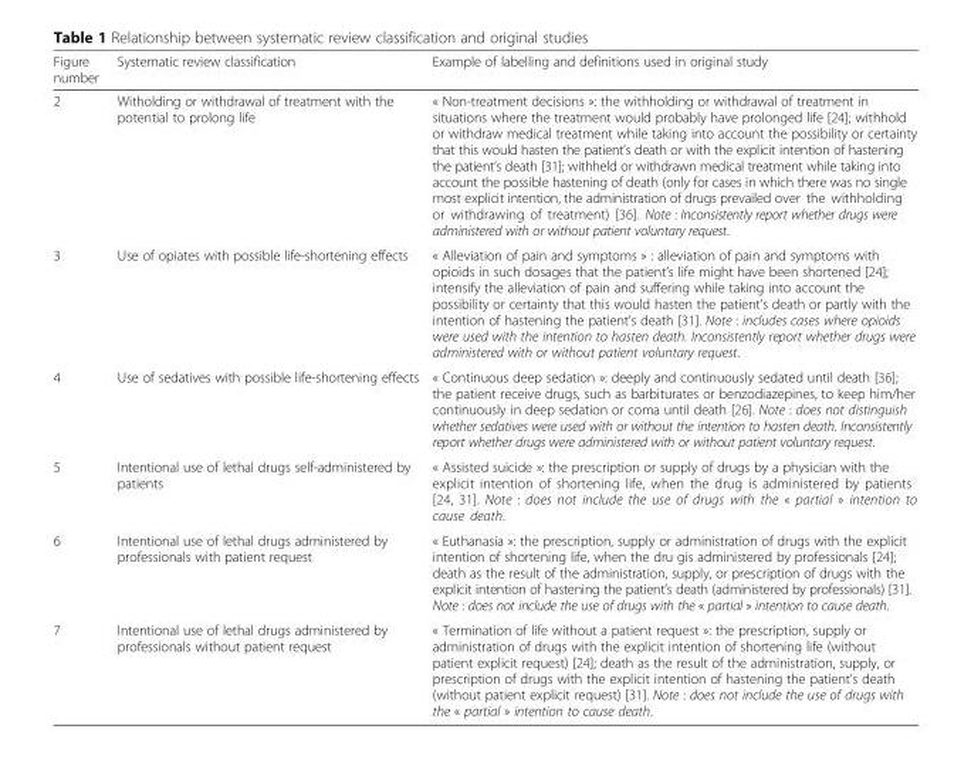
<table><thead><tr><td>Figure number</td><td>Systematic review classification</td><td>Example of labelling and definitions used in original study</td></tr></thead><tbody><tr><td>2</td><td>Witholding or withdrawal of treatment with the potential to prolong life</td><td>« Non-treatment decisions »: the withholding or withdrawal of treatment in situations where the treatment would probably have prolonged life [24]; withhold or withdraw medical treatment while taking into account the possibility or certainty that this would hasten the patient’s death or with the explicit intention of hastening the patient’s death [31]; withheld or withdrawn medical treatment while taking into account the possible hastening of death (only for cases in which there was no single most explicit intention, the administration of drugs prevailed over the withholding or withdrawing of treatment) [36]. Note : Inconsistently report whether drugs were administered with or without patient voluntary request.</td></tr><tr><td>3</td><td>Use of opiates with possible life-shortening effects</td><td>« Alleviation of pain and symptoms » : alleviation of pain and symptoms with opioids in such dosages that the patient’s life might have been shortened [24]; intensify the alleviation of pain and suffering while taking into account the possibility or certainty that this would hasten the patient’s death or partly with the intention of hastening the patient’s death [31]. Note : includes cases where opioids were used with the intention to hasten death. Inconsistently report whether drugs were administered with or without patient voluntary request.</td></tr><tr><td>4</td><td>Use of sedatives with possible life-shortening effects</td><td>« Continuous deep sedation »: deeply and continuously sedated until death [36]; the patient receive drugs, such as barbiturates or benzodiazepines, to keep him/her continuously in deep sedation or coma until death [26]. Note : does not distinguish whether sedatives were used with or without the intention to hasten death. Inconsistently report whether drugs were administered with or without patient voluntary request.</td></tr><tr><td>5</td><td>Intentional use of lethal drugs self-administered by patients</td><td>« Assisted suicide »: the prescription or supply of drugs by a physician with the explicit intention of shortening life, when the drug is administered by patients [24, 31]. Note : does not include the use of drugs with the « partial » intention to cause death.</td></tr><tr><td>6</td><td>Intentional use of lethal drugs administered by professionals with patient request</td><td>« Euthanasia »: the prescription, supply or administration of drugs with the explicit intention of shortening life, when the dru gis administered by professionals [24]; death as the result of the administration, supply, or prescription of drugs with the explicit intention of hastening the patient’s death (administered by professionals) [31]. Note : does not include the use of drugs with the « partial » intention to cause death.</td></tr><tr><td>7</td><td>Intentional use of lethal drugs administered by professionals without patient request</td><td>« Termination of life without a patient request »: the prescription, supply or administration of drugs with the explicit intention of shortening life (without patient explicit request) [24]; death as the result of the administration, supply, or prescription of drugs with the explicit intention of hastening the patient’s death (without patient explicit request) [31]. Note : does not include the use of drugs with the « partial » intention to cause death.</td></tr></tbody></table>